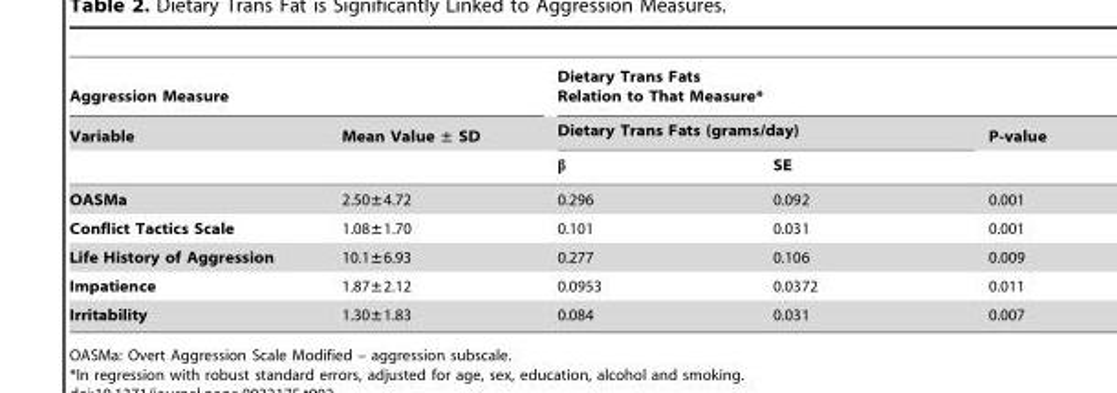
<table><thead><tr><td colspan="2">Aggression Measure</td><td colspan="3">Dietary Trans Fats Relation to That Measure*</td></tr><tr><td rowspan="2">Variable</td><td rowspan="2">Mean Value ± SD</td><td colspan="2">Dietary Trans Fats (grams/day)</td><td rowspan="2">P-value</td></tr><tr><td>β</td><td>SE</td></tr></thead><tbody><tr><td>OASMa</td><td>2.50±4.72</td><td>0.296</td><td>0.092</td><td>0.001</td></tr><tr><td>Conflict Tactics Scale</td><td>1.08±1.70</td><td>0.101</td><td>0.031</td><td>0.001</td></tr><tr><td>Life History of Aggression</td><td>10.1±6.93</td><td>0.277</td><td>0.106</td><td>0.009</td></tr><tr><td>Impatience</td><td>1.87±2.12</td><td>0.0953</td><td>0.0372</td><td>0.011</td></tr><tr><td>Irritability</td><td>1.30±1.83</td><td>0.084</td><td>0.031</td><td>0.007</td></tr></tbody></table>